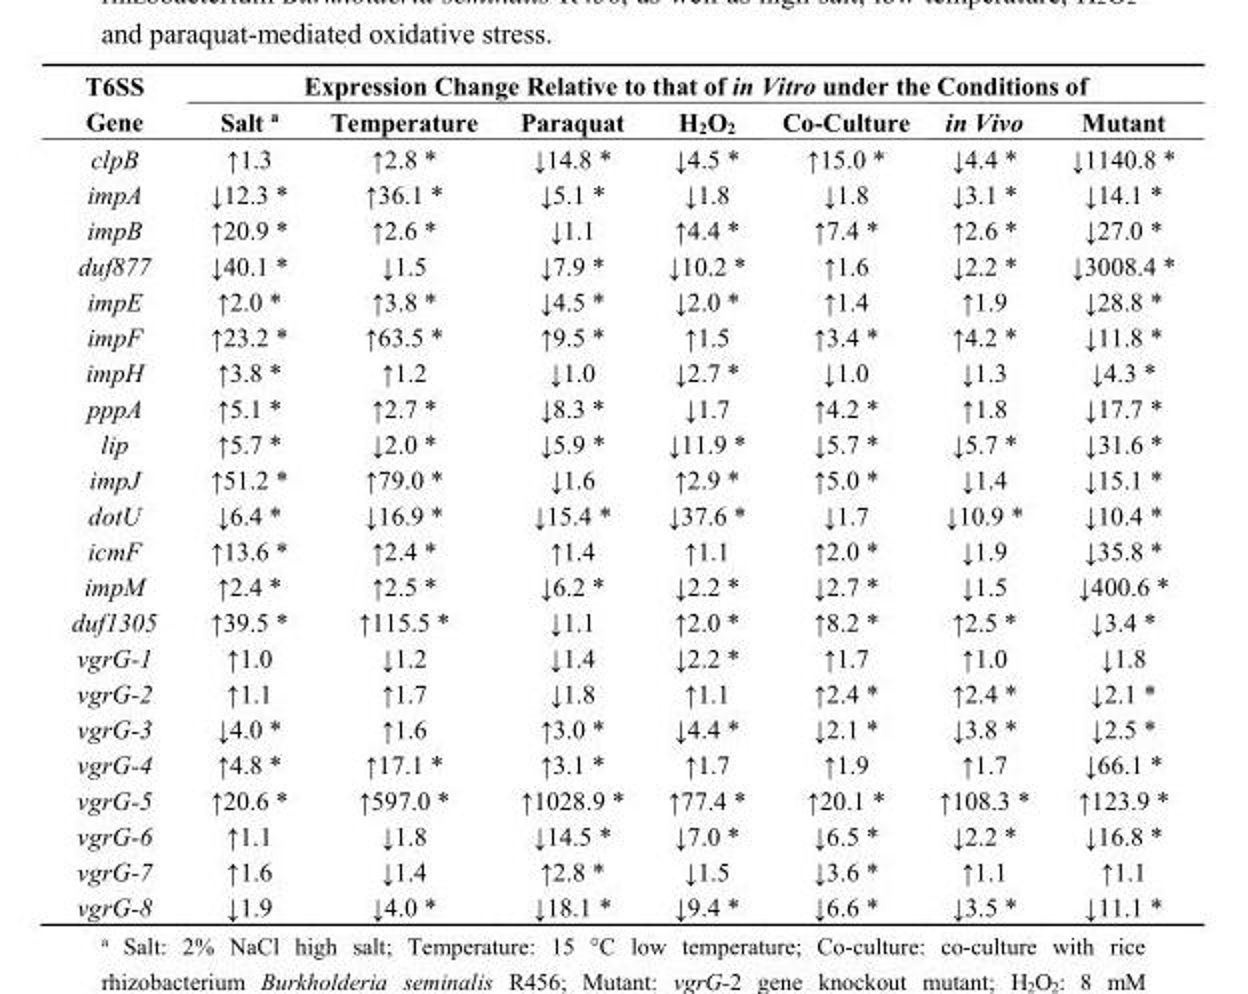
<table><thead><tr><td rowspan="2">T6SS Gene</td><td colspan="7">Expression Change Relative to that of in Vitro under the Conditions of</td></tr><tr><td>Salt <sup>a</sup></td><td>Temperature</td><td>Paraquat</td><td>H<sub>2</sub>O<sub>2</sub></td><td>Co-Culture</td><td>in Vivo</td><td>Mutant</td></tr></thead><tbody><tr><td>clpB</td><td>↑1.3</td><td>↑2.8 *</td><td>↓14.8 *</td><td>↓4.5 *</td><td>↑15.0 *</td><td>↓4.4 *</td><td>↓1140.8 *</td></tr><tr><td>impA</td><td>↓12.3 *</td><td>↑36.1 *</td><td>↓5.1 *</td><td>↓1.8</td><td>↓1.8</td><td>↓3.1 *</td><td>↓14.1 *</td></tr><tr><td>impB</td><td>↑20.9 *</td><td>↑2.6 *</td><td>↓1.1</td><td>↑4.4 *</td><td>↑7.4 *</td><td>↑2.6 *</td><td>↓27.0 *</td></tr><tr><td>duf877</td><td>↓40.1 *</td><td>↓1.5</td><td>↓7.9 *</td><td>↓10.2 *</td><td>↑1.6</td><td>↓2.2 *</td><td>↓3008.4 *</td></tr><tr><td>impE</td><td>↑2.0 *</td><td>↑3.8 *</td><td>↓4.5 *</td><td>↓2.0 *</td><td>↑1.4</td><td>↑1.9</td><td>↓28.8 *</td></tr><tr><td>impF</td><td>↑23.2 *</td><td>↑63.5 *</td><td>↑9.5 *</td><td>↑1.5</td><td>↑3.4 *</td><td>↑4.2 *</td><td>↓11.8 *</td></tr><tr><td>impH</td><td>↑3.8 *</td><td>↑1.2</td><td>↓1.0</td><td>↓2.7 *</td><td>↓1.0</td><td>↓1.3</td><td>↓4.3 *</td></tr><tr><td>pppA</td><td>↑5.1 *</td><td>↑2.7 *</td><td>↓8.3 *</td><td>↓1.7</td><td>↑4.2 *</td><td>↑1.8</td><td>↓17.7 *</td></tr><tr><td>lip</td><td>↑5.7 *</td><td>↓2.0 *</td><td>↓5.9 *</td><td>↓11.9 *</td><td>↓5.7 *</td><td>↓5.7 *</td><td>↓31.6 *</td></tr><tr><td>impJ</td><td>↑51.2 *</td><td>↑79.0 *</td><td>↓1.6</td><td>↑2.9 *</td><td>↑5.0 *</td><td>↓1.4</td><td>↓15.1 *</td></tr><tr><td>dotU</td><td>↓6.4 *</td><td>↓16.9 *</td><td>↓15.4 *</td><td>↓37.6 *</td><td>↓1.7</td><td>↓10.9 *</td><td>↓10.4 *</td></tr><tr><td>icmF</td><td>↑13.6 *</td><td>↑2.4 *</td><td>↑1.4</td><td>↑1.1</td><td>↑2.0 *</td><td>↓1.9</td><td>↓35.8 *</td></tr><tr><td>impM</td><td>↑2.4 *</td><td>↑2.5 *</td><td>↓6.2 *</td><td>↓2.2 *</td><td>↓2.7 *</td><td>↓1.5</td><td>↓400.6 *</td></tr><tr><td>duf1305</td><td>↑39.5 *</td><td>↑115.5 *</td><td>↓1.1</td><td>↑2.0 *</td><td>↑8.2 *</td><td>↑2.5 *</td><td>↓3.4 *</td></tr><tr><td>vgrG-1</td><td>↑1.0</td><td>↓1.2</td><td>↓1.4</td><td>↓2.2 *</td><td>↑1.7</td><td>↑1.0</td><td>↓1.8</td></tr><tr><td>vgrG-2</td><td>↑1.1</td><td>↑1.7</td><td>↓1.8</td><td>↑1.1</td><td>↑2.4 *</td><td>↑2.4 *</td><td>↓2.1 *</td></tr><tr><td>vgrG-3</td><td>↓4.0 *</td><td>↑1.6</td><td>↑3.0 *</td><td>↓4.4 *</td><td>↓2.1 *</td><td>↓3.8 *</td><td>↓2.5 *</td></tr><tr><td>vgrG-4</td><td>↑4.8 *</td><td>↑17.1 *</td><td>↑3.1 *</td><td>↑1.7</td><td>↑1.9</td><td>↑1.7</td><td>↓66.1 *</td></tr><tr><td>vgrG-5</td><td>↑20.6 *</td><td>↑597.0 *</td><td>↑1028.9 *</td><td>↑77.4 *</td><td>↑20.1 *</td><td>↑108.3 *</td><td>↑123.9 *</td></tr><tr><td>vgrG-6</td><td>↑1.1</td><td>↓1.8</td><td>↓14.5 *</td><td>↓7.0 *</td><td>↓6.5 *</td><td>↓2.2 *</td><td>↓16.8 *</td></tr><tr><td>vgrG-7</td><td>↑1.6</td><td>↓1.4</td><td>↑2.8 *</td><td>↓1.5</td><td>↓3.6 *</td><td>↑1.1</td><td>↑1.1</td></tr><tr><td>vgrG-8</td><td>↓1.9</td><td>↓4.0 *</td><td>↓18.1 *</td><td>↓9.4 *</td><td>↓6.6 *</td><td>↓3.5 *</td><td>↓11.1 *</td></tr></tbody></table>